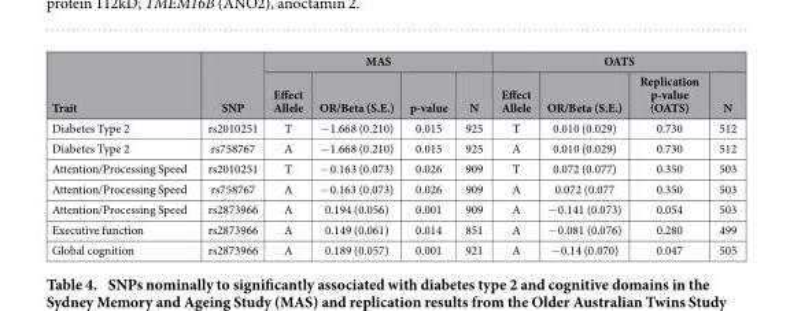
<table><thead><tr><td rowspan="2">Trait</td><td rowspan="2">SNP</td><td colspan="4">MAS</td><td colspan="4">OATS</td></tr><tr><td>Effect Allele</td><td>OR/Beta (S.E.)</td><td>p-value</td><td>N</td><td>Effect Allele</td><td>OR/Beta (S.E.)</td><td>Replication p-value (OATS)</td><td>N</td></tr></thead><tbody><tr><td>Diabetes Type 2</td><td>rs2010251</td><td>T</td><td>− 1.668 (0.210)</td><td>0.015</td><td>925</td><td>T</td><td>0.010 (0.029)</td><td>0.730</td><td>512</td></tr><tr><td>Diabetes Type 2</td><td>rs758767</td><td>A</td><td>− 1.668 (0.210)</td><td>0.015</td><td>925</td><td>A</td><td>0.010 (0.029)</td><td>0.730</td><td>512</td></tr><tr><td>Attention/Processing Speed</td><td>rs2010251</td><td>T</td><td>− 0.163 (0.073)</td><td>0.026</td><td>909</td><td>T</td><td>0.072 (0.077)</td><td>0.350</td><td>503</td></tr><tr><td>Attention/Processing Speed</td><td>rs758767</td><td>A</td><td>− 0.163 (0.073)</td><td>0.026</td><td>909</td><td>A</td><td>0.072 (0.077</td><td>0.350</td><td>503</td></tr><tr><td>Attention/Processing Speed</td><td>rs2873966</td><td>A</td><td>0.194 (0.056)</td><td>0.001</td><td>909</td><td>A</td><td>− 0.141 (0.073)</td><td>0.054</td><td>503</td></tr><tr><td>Executive function</td><td>rs2873966</td><td>A</td><td>0.149 (0.061)</td><td>0.014</td><td>851</td><td>A</td><td>− 0.081 (0.076)</td><td>0.280</td><td>499</td></tr><tr><td>Global cognition</td><td>rs2873966</td><td>A</td><td>0.189 (0.057)</td><td>0.001</td><td>921</td><td>A</td><td>− 0.14 (0.070)</td><td>0.047</td><td>505</td></tr></tbody></table>